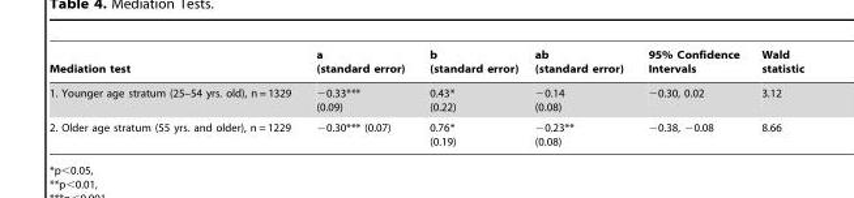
<table><thead><tr><td>Mediation test</td><td>a (standard error)</td><td>b (standard error)</td><td>ab (standard error)</td><td>95% Confidence Intervals</td><td>Wald statistic</td></tr></thead><tbody><tr><td>1. Younger age stratum (25–54 yrs. old), n = 1329</td><td>−0.33*** (0.09)</td><td>0.43* (0.22)</td><td>−0.14 (0.08)</td><td>−0.30, 0.02</td><td>3.12</td></tr><tr><td>2. Older age stratum (55 yrs. and older), n = 1229</td><td>−0.30*** (0.07)</td><td>0.76* (0.19)</td><td>−0.23** (0.08)</td><td>−0.38, −0.08</td><td>8.66</td></tr></tbody></table>